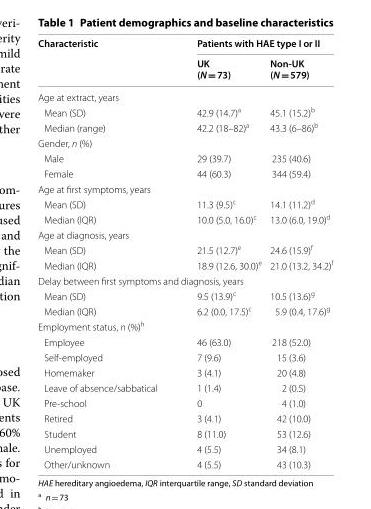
<table><thead><tr><td rowspan="2">Characteristic</td><td colspan="2">Patients with HAE type I or II</td></tr><tr><td>UK (N = 73)</td><td>Non-UK (N = 579)</td></tr></thead><tbody><tr><td colspan="3">Age at extract, years</td></tr><tr><td>Mean (SD)</td><td>42.9 (14.7)<sup>a</sup></td><td>45.1 (15.2)<sup>b</sup></td></tr><tr><td>Median (range)</td><td>42.2 (18–82)<sup>a</sup></td><td>43.3 (6–86)<sup>b</sup></td></tr><tr><td colspan="3">Gender, n (%)</td></tr><tr><td>Male</td><td>29 (39.7)</td><td>235 (40.6)</td></tr><tr><td>Female</td><td>44 (60.3)</td><td>344 (59.4)</td></tr><tr><td colspan="3">Age at first symptoms, years</td></tr><tr><td>Mean (SD)</td><td>11.3 (9.5)<sup>c</sup></td><td>14.1 (11.2)<sup>d</sup></td></tr><tr><td>Median (IQR)</td><td>10.0 (5.0, 16.0)<sup>c</sup></td><td>13.0 (6.0, 19.0)<sup>d</sup></td></tr><tr><td colspan="3">Age at diagnosis, years</td></tr><tr><td>Mean (SD)</td><td>21.5 (12.7)<sup>e</sup></td><td>24.6 (15.9)<sup>f</sup></td></tr><tr><td>Median (IQR)</td><td>18.9 (12.6, 30.0)<sup>e</sup></td><td>21.0 (13.2, 34.2)<sup>f</sup></td></tr><tr><td colspan="3">Delay between first symptoms and diagnosis, years</td></tr><tr><td>Mean (SD)</td><td>9.5 (13.9)<sup>c</sup></td><td>10.5 (13.6)<sup>g</sup></td></tr><tr><td>Median (IQR)</td><td>6.2 (0.0, 17.5)<sup>c</sup></td><td>5.9 (0.4, 17.6)<sup>g</sup></td></tr><tr><td colspan="3">Employment status, n (%)<sup>h</sup></td></tr><tr><td>Employee</td><td>46 (63.0)</td><td>218 (52.0)</td></tr><tr><td>Self-employed</td><td>7 (9.6)</td><td>15 (3.6)</td></tr><tr><td>Homemaker</td><td>3 (4.1)</td><td>20 (4.8)</td></tr><tr><td>Leave of absence/sabbatical</td><td>1 (1.4)</td><td>2 (0.5)</td></tr><tr><td>Pre-school</td><td>0</td><td>4 (1.0)</td></tr><tr><td>Retired</td><td>3 (4.1)</td><td>42 (10.0)</td></tr><tr><td>Student</td><td>8 (11.0)</td><td>53 (12.6)</td></tr><tr><td>Unemployed</td><td>4 (5.5)</td><td>34 (8.1)</td></tr><tr><td>Other/unknown</td><td>4 (5.5)</td><td>43 (10.3)</td></tr></tbody></table>